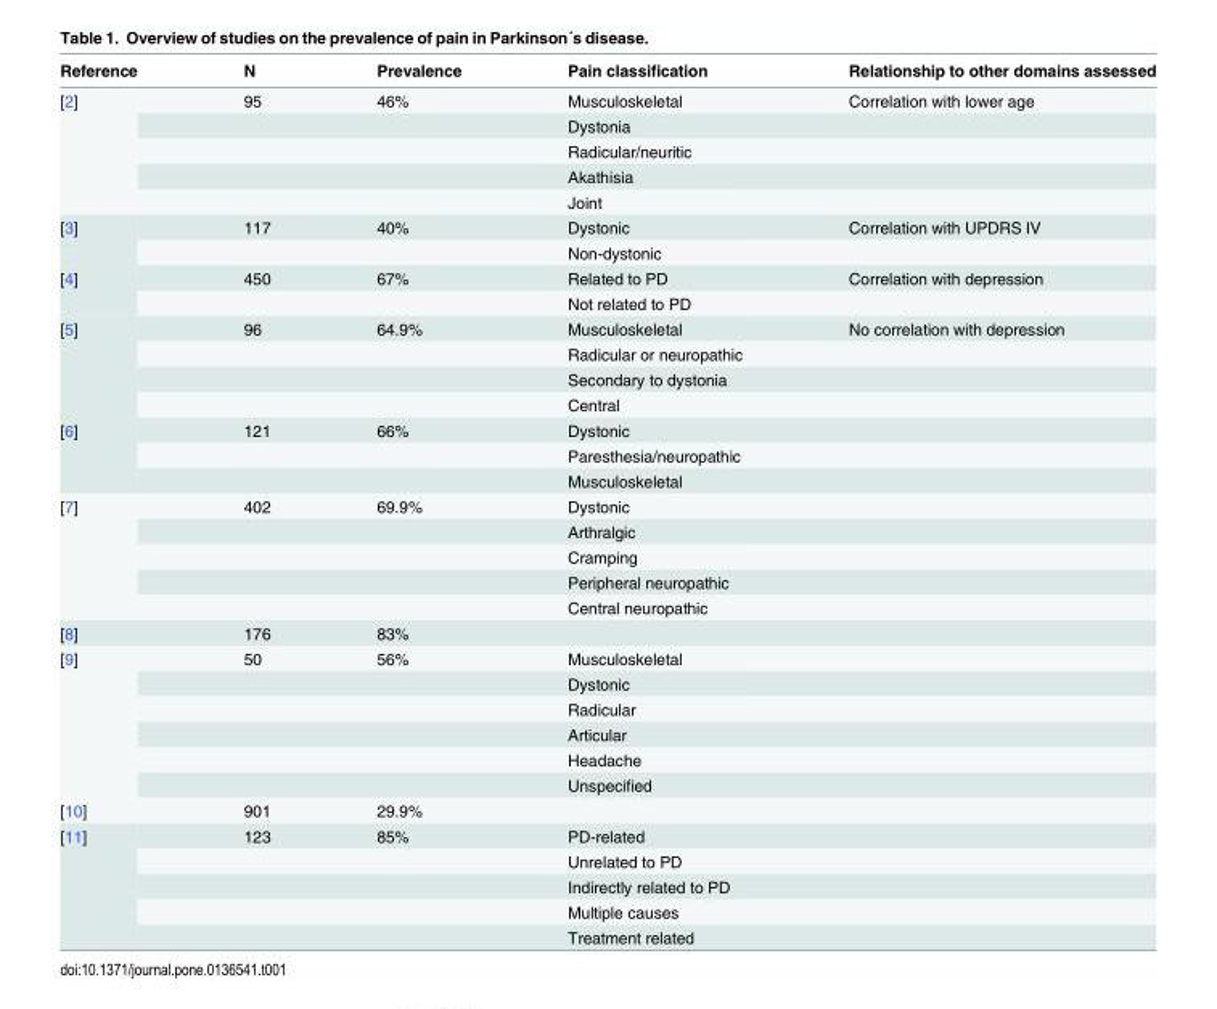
<table><thead><tr><td>Reference</td><td>N</td><td>Prevalence</td><td>Pain classification</td><td>Relationship to other domains assessed</td></tr></thead><tbody><tr><td rowspan="5">[2]</td><td>95</td><td>46%</td><td>Musculoskeletal</td><td>Correlation with lower age</td></tr><tr><td></td><td></td><td>Dystonia</td><td></td></tr><tr><td></td><td></td><td>Radicular/neuritic</td><td></td></tr><tr><td></td><td></td><td>Akathisia</td><td></td></tr><tr><td></td><td></td><td>Joint</td><td></td></tr><tr><td rowspan="2">[3]</td><td>117</td><td>40%</td><td>Dystonic</td><td>Correlation with UPDRS IV</td></tr><tr><td></td><td></td><td>Non-dystonic</td><td></td></tr><tr><td rowspan="2">[4]</td><td>450</td><td>67%</td><td>Related to PD</td><td>Correlation with depression</td></tr><tr><td></td><td></td><td>Not related to PD</td><td></td></tr><tr><td rowspan="4">[5]</td><td>96</td><td>64.9%</td><td>Musculoskeletal</td><td>No correlation with depression</td></tr><tr><td></td><td></td><td>Radicular or neuropathic</td><td></td></tr><tr><td></td><td></td><td>Secondary to dystonia</td><td></td></tr><tr><td></td><td></td><td>Central</td><td></td></tr><tr><td rowspan="3">[6]</td><td>121</td><td>66%</td><td>Dystonic</td><td></td></tr><tr><td></td><td></td><td>Paresthesia/neuropathic</td><td></td></tr><tr><td></td><td></td><td>Musculoskeletal</td><td></td></tr><tr><td rowspan="5">[7]</td><td>402</td><td>69.9%</td><td>Dystonic</td><td></td></tr><tr><td></td><td></td><td>Arthralgic</td><td></td></tr><tr><td></td><td></td><td>Cramping</td><td></td></tr><tr><td></td><td></td><td>Peripheral neuropathic</td><td></td></tr><tr><td></td><td></td><td>Central neuropathic</td><td></td></tr><tr><td>[8]</td><td>176</td><td>83%</td><td></td><td></td></tr><tr><td rowspan="6">[9]</td><td>50</td><td>56%</td><td>Musculoskeletal</td><td></td></tr><tr><td></td><td></td><td>Dystonic</td><td></td></tr><tr><td></td><td></td><td>Radicular</td><td></td></tr><tr><td></td><td></td><td>Articular</td><td></td></tr><tr><td></td><td></td><td>Headache</td><td></td></tr><tr><td></td><td></td><td>Unspecified</td><td></td></tr><tr><td>[10]</td><td>901</td><td>29.9%</td><td></td><td></td></tr><tr><td rowspan="5">[11]</td><td>123</td><td>85%</td><td>PD-related</td><td></td></tr><tr><td></td><td></td><td>Unrelated to PD</td><td></td></tr><tr><td></td><td></td><td>Indirectly related to PD</td><td></td></tr><tr><td></td><td></td><td>Multiple causes</td><td></td></tr><tr><td></td><td></td><td>Treatment related</td><td></td></tr></tbody></table>